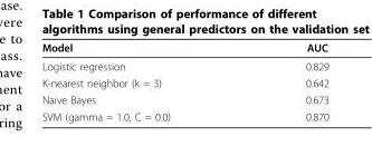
<table><thead><tr><td>Model</td><td>AUC</td></tr></thead><tbody><tr><td>Logistic regression</td><td>0.829</td></tr><tr><td>K-nearest neighbor (k = 3)</td><td>0.642</td></tr><tr><td>Naive Bayes</td><td>0.673</td></tr><tr><td>SVM (gamma = 1.0, C = 0.0)</td><td>0.870</td></tr></tbody></table>